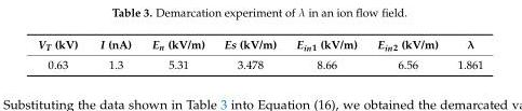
<table><thead><tr><td>V<sub>T</sub> (kV)</td><td>I (nA)</td><td>E<sub>n</sub> (kV/m)</td><td>Es (kV/m)</td><td>E<sub>in1</sub> (kV/m)</td><td>E<sub>in2</sub> (kV/m)</td><td>λ</td></tr></thead><tbody><tr><td>0.63</td><td>1.3</td><td>5.31</td><td>3.478</td><td>8.66</td><td>6.56</td><td>1.861</td></tr></tbody></table>